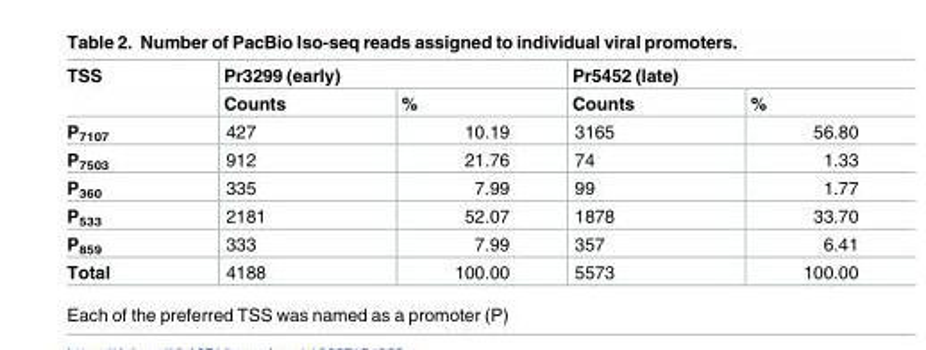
<table><thead><tr><td rowspan="2">TSS</td><td colspan="2">Pr3299 (early)</td><td colspan="2">Pr5452 (late)</td></tr><tr><td>Counts</td><td>%</td><td>Counts</td><td>%</td></tr></thead><tbody><tr><td>P<sub>7107</sub></td><td>427</td><td>10.19</td><td>3165</td><td>56.80</td></tr><tr><td>P<sub>7503</sub></td><td>912</td><td>21.76</td><td>74</td><td>1.33</td></tr><tr><td>P<sub>360</sub></td><td>335</td><td>7.99</td><td>99</td><td>1.77</td></tr><tr><td>P<sub>533</sub></td><td>2181</td><td>52.07</td><td>1878</td><td>33.70</td></tr><tr><td>P<sub>859</sub></td><td>333</td><td>7.99</td><td>357</td><td>6.41</td></tr><tr><td>Total</td><td>4188</td><td>100.00</td><td>5573</td><td>100.00</td></tr></tbody></table>